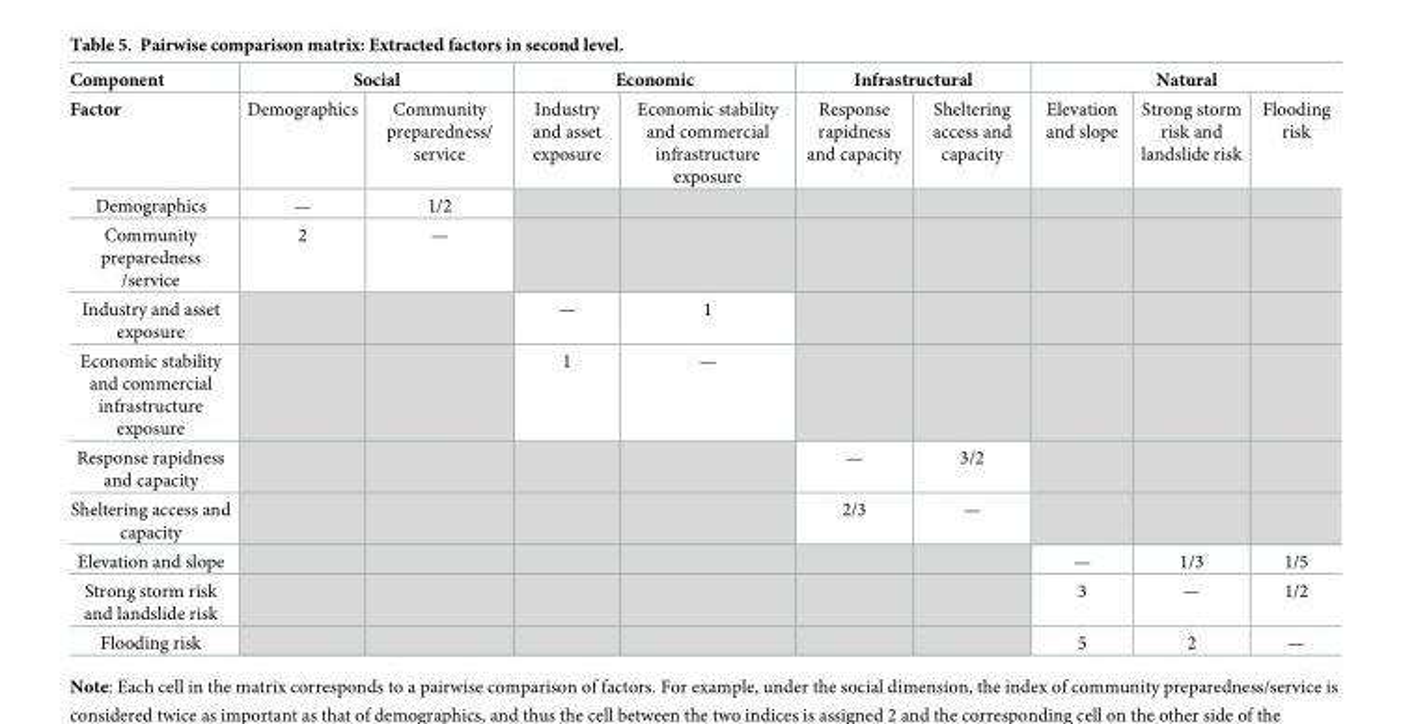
<table><thead><tr><td rowspan="2">Component Factor</td><td colspan="2">Social</td><td colspan="2">Economic</td><td colspan="2">Infrastructural</td><td colspan="3">Natural</td></tr><tr><td>Demographics</td><td>Community preparedness/ service</td><td>Industry and asset exposure</td><td>Economic stability and commercial infrastructure exposure</td><td>Response rapidness and capacity</td><td>Sheltering access and capacity</td><td>Elevation and slope</td><td>Strong storm risk and landslide risk</td><td>Flooding risk</td></tr></thead><tbody><tr><td>Demographics</td><td>—</td><td>1/2</td><td></td><td></td><td></td><td></td><td></td><td></td><td></td></tr><tr><td>Community preparedness /service</td><td>2</td><td>—</td><td></td><td></td><td></td><td></td><td></td><td></td><td></td></tr><tr><td>Industry and asset exposure</td><td></td><td></td><td>—</td><td>1</td><td></td><td></td><td></td><td></td><td></td></tr><tr><td>Economic stability and commercial infrastructure exposure</td><td></td><td></td><td>1</td><td>—</td><td></td><td></td><td></td><td></td><td></td></tr><tr><td>Response rapidness and capacity</td><td></td><td></td><td></td><td></td><td>—</td><td>3/2</td><td></td><td></td><td></td></tr><tr><td>Sheltering access and capacity</td><td></td><td></td><td></td><td></td><td>2/3</td><td>—</td><td></td><td></td><td></td></tr><tr><td>Elevation and slope</td><td></td><td></td><td></td><td></td><td></td><td></td><td>—</td><td>1/3</td><td>1/5</td></tr><tr><td>Strong storm risk and landslide risk</td><td></td><td></td><td></td><td></td><td></td><td></td><td>3</td><td>—</td><td>1/2</td></tr><tr><td>Flooding risk</td><td></td><td></td><td></td><td></td><td></td><td></td><td>5</td><td>2</td><td>—</td></tr></tbody></table>